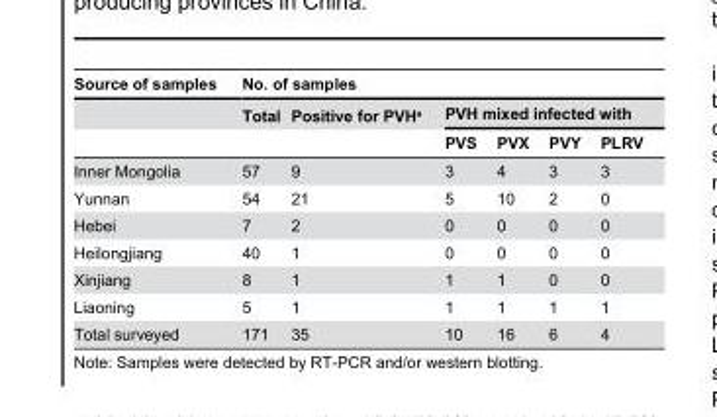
<table><thead><tr><td rowspan="3">Source of samples</td><td colspan="6">No. of samples</td></tr><tr><td rowspan="2">Total</td><td rowspan="2">Positive for PVH<sup>a</sup></td><td colspan="4">PVH mixed infected with</td></tr><tr><td>PVS</td><td>PVX</td><td>PVY</td><td>PLRV</td></tr></thead><tbody><tr><td>Inner Mongolia</td><td>57</td><td>9</td><td>3</td><td>4</td><td>3</td><td>3</td></tr><tr><td>Yunnan</td><td>54</td><td>21</td><td>5</td><td>10</td><td>2</td><td>0</td></tr><tr><td>Hebei</td><td>7</td><td>2</td><td>0</td><td>0</td><td>0</td><td>0</td></tr><tr><td>Heilongjiang</td><td>40</td><td>1</td><td>0</td><td>0</td><td>0</td><td>0</td></tr><tr><td>Xinjiang</td><td>8</td><td>1</td><td>1</td><td>1</td><td>0</td><td>0</td></tr><tr><td>Liaoning</td><td>5</td><td>1</td><td>1</td><td>1</td><td>1</td><td>1</td></tr><tr><td>Total surveyed</td><td>171</td><td>35</td><td>10</td><td>16</td><td>6</td><td>4</td></tr></tbody></table>